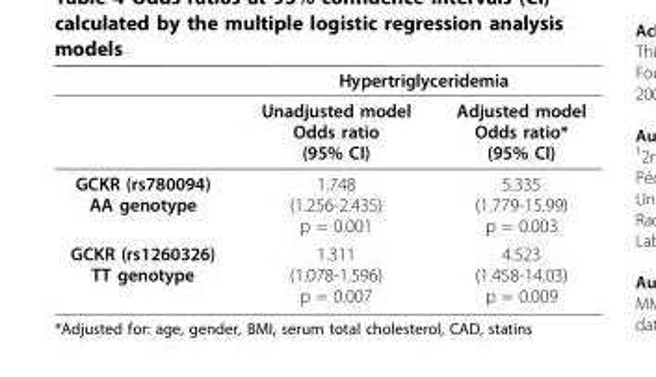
<table><thead><tr><td rowspan="2"></td><td colspan="2">Hypertriglyceridemia</td></tr><tr><td>Unadjusted model Odds ratio (95% CI)</td><td>Adjusted model Odds ratio* (95% CI)</td></tr></thead><tbody><tr><td>GCKR (rs780094) AA genotype</td><td>1.748 (1.256-2.435) p = 0.001</td><td>5.335 (1.779-15.99) p = 0.003</td></tr><tr><td>GCKR (rs1260326) TT genotype</td><td>1.311 (1.078-1.596) p = 0.007</td><td>4.523 (1.458-14.03) p = 0.009</td></tr></tbody></table>